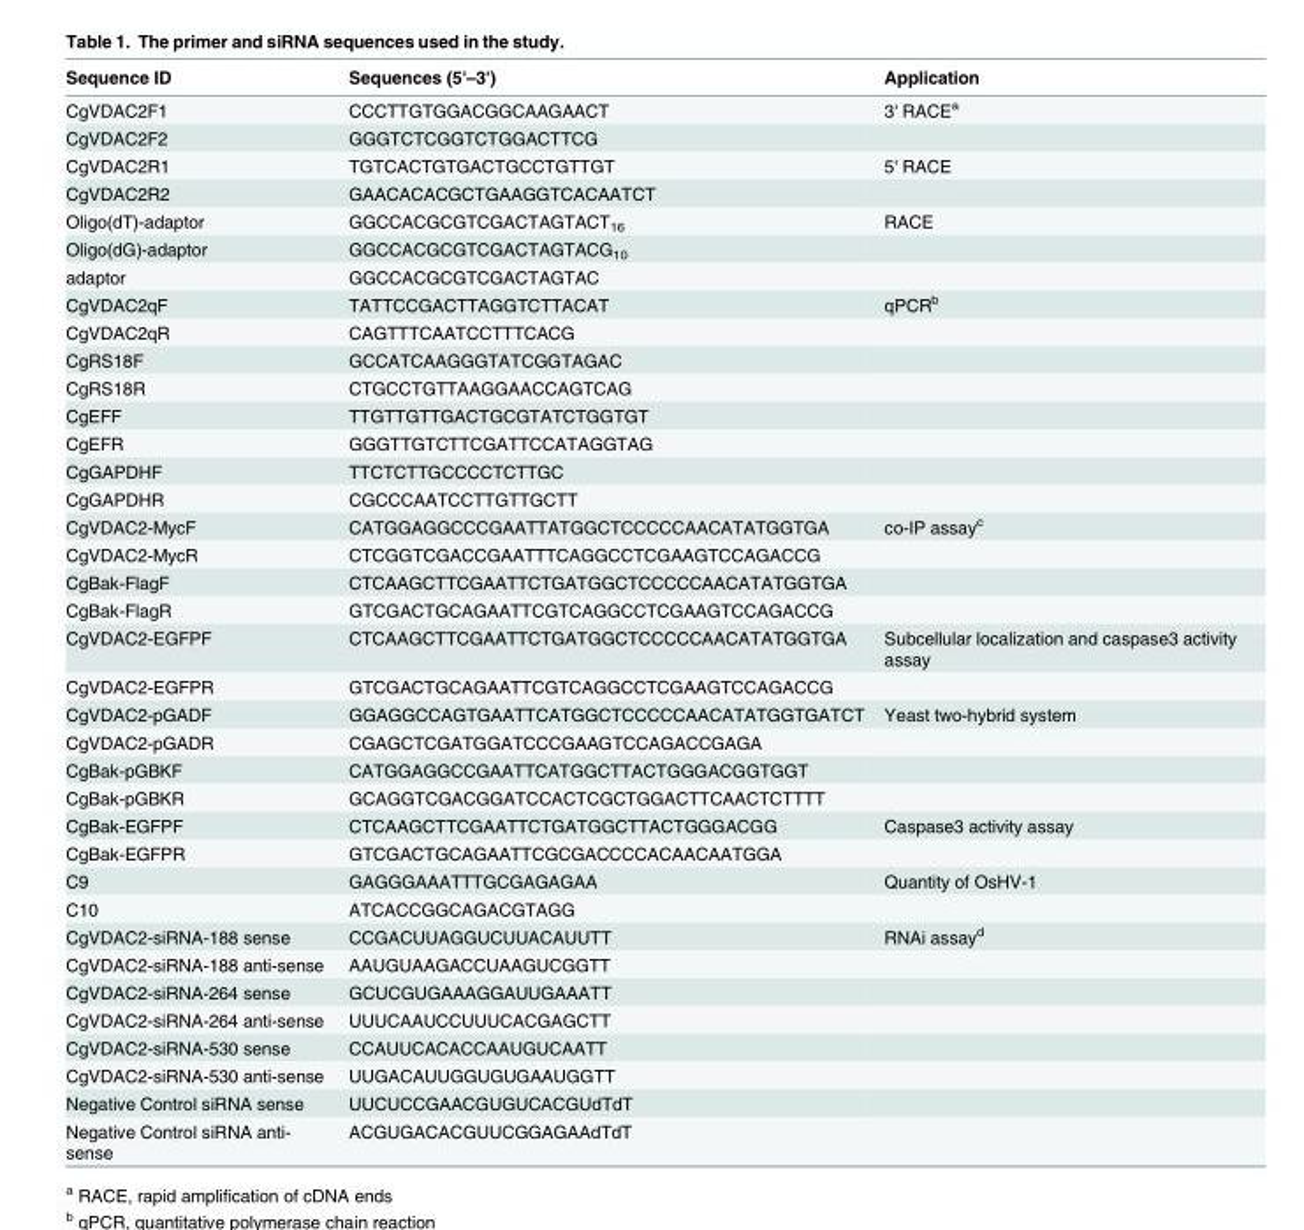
<table><thead><tr><td>Sequence ID</td><td>Sequences (5&#x27;–3&#x27;)</td><td>Application</td></tr></thead><tbody><tr><td>CgVDAC2F1</td><td>CCCTTGTGGACGGCAAGAACT</td><td>3&#x27; RACE<sup>a</sup></td></tr><tr><td>CgVDAC2F2</td><td>GGGTCTCGGTCTGGACTTCG</td><td></td></tr><tr><td>CgVDAC2R1</td><td>TGTCACTGTGACTGCCTGTTGT</td><td>5&#x27; RACE</td></tr><tr><td>CgVDAC2R2</td><td>GAACACACGCTGAAGGTCACAATCT</td><td></td></tr><tr><td>Oligo(dT)-adaptor</td><td>GGCCACGCGTCGACTAGTACT<sub>16</sub></td><td>RACE</td></tr><tr><td>Oligo(dG)-adaptor</td><td>GGCCACGCGTCGACTAGTACG<sub>10</sub></td><td></td></tr><tr><td>adaptor</td><td>GGCCACGCGTCGACTAGTAC</td><td></td></tr><tr><td>CgVDAC2qF</td><td>TATTCCGACTTAGGTCTTACAT</td><td>qPCR<sup>b</sup></td></tr><tr><td>CgVDAC2qR</td><td>CAGTTTCAATCCTTTCACG</td><td></td></tr><tr><td>CgRS18F</td><td>GCCATCAAGGGTATCGGTAGAC</td><td></td></tr><tr><td>CgRS18R</td><td>CTGCCTGTTAAGGAACCAGTCAG</td><td></td></tr><tr><td>CgEFF</td><td>TTGTTGTTGACTGCGTATCTGGTGT</td><td></td></tr><tr><td>CgEFR</td><td>GGGTTGTCTTCGATTCCATAGGTAG</td><td></td></tr><tr><td>CgGAPDHF</td><td>TTCTCTTGCCCCTCTTGC</td><td></td></tr><tr><td>CgGAPDHR</td><td>CGCCCAATCCTTGTTGCTT</td><td></td></tr><tr><td>CgVDAC2-MycF</td><td>CATGGAGGCCCGAATTATGGCTCCCCCAACATATGGTGA</td><td>co-IP assay<sup>c</sup></td></tr><tr><td>CgVDAC2-MycR</td><td>CTCGGTCGACCGAATTTCAGGCCTCGAAGTCCAGACCG</td><td></td></tr><tr><td>CgBak-FlagF</td><td>CTCAAGCTTCGAATTCTGATGGCTCCCCCAACATATGGTGA</td><td></td></tr><tr><td>CgBak-FlagR</td><td>GTCGACTGCAGAATTCGTCAGGCCTCGAAGTCCAGACCG</td><td></td></tr><tr><td>CgVDAC2-EGFPF</td><td>CTCAAGCTTCGAATTCTGATGGCTCCCCCAACATATGGTGA</td><td>Subcellular localization and caspase3 activity assay</td></tr><tr><td>CgVDAC2-EGFPR</td><td>GTCGACTGCAGAATTCGTCAGGCCTCGAAGTCCAGACCG</td><td></td></tr><tr><td>CgVDAC2-pGADF</td><td>GGAGGCCAGTGAATTCATGGCTCCCCCAACATATGGTGATCT</td><td>Yeast two-hybrid system</td></tr><tr><td>CgVDAC2-pGADR</td><td>CGAGCTCGATGGATCCCGAAGTCCAGACCGAGA</td><td></td></tr><tr><td>CgBak-pGBKF</td><td>CATGGAGGCCGAATTCATGGCTTACTGGGACGGTGGT</td><td></td></tr><tr><td>CgBak-pGBKR</td><td>GCAGGTCGACGGATCCACTCGCTGGACTTCAACTCTTTT</td><td></td></tr><tr><td>CgBak-EGFPF</td><td>CTCAAGCTTCGAATTCTGATGGCTTACTGGGACGG</td><td>Caspase3 activity assay</td></tr><tr><td>CgBak-EGFPR</td><td>GTCGACTGCAGAATTCGCGACCCCACAACAATGGA</td><td></td></tr><tr><td>C9</td><td>GAGGGAAATTTGCGAGAGAA</td><td>Quantity of OsHV-1</td></tr><tr><td>C10</td><td>ATCACCGGCAGACGTAGG</td><td></td></tr><tr><td>CgVDAC2-siRNA-188 sense</td><td>CCGACUUAGGUCUUACAUUTT</td><td>RNAi assay<sup>d</sup></td></tr><tr><td>CgVDAC2-siRNA-188 anti-sense</td><td>AAUGUAAGACCUAAGUCGGTT</td><td></td></tr><tr><td>CgVDAC2-siRNA-264 sense</td><td>GCUCGUGAAAGGAUUGAAATT</td><td></td></tr><tr><td>CgVDAC2-siRNA-264 anti-sense</td><td>UUUCAAUCCUUUCACGAGCTT</td><td></td></tr><tr><td>CgVDAC2-siRNA-530 sense</td><td>CCAUUCACACCAAUGUCAATT</td><td></td></tr><tr><td>CgVDAC2-siRNA-530 anti-sense</td><td>UUGACAUUGGUGUGAAUGGTT</td><td></td></tr><tr><td>Negative Control siRNA sense</td><td>UUCUCCGAACGUGUCACGUdTdT</td><td></td></tr><tr><td>Negative Control siRNA anti- sense</td><td>ACGUGACACGUUCGGAGAAdTdT</td><td></td></tr></tbody></table>